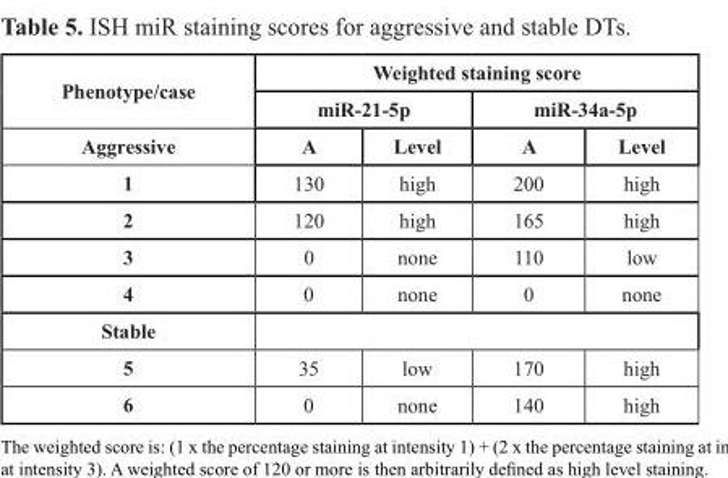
<table><thead><tr><td rowspan="3">Phenotype/case Aggressive</td><td colspan="4">Weighted staining score</td></tr><tr><td colspan="2">miR-21-5p</td><td colspan="2">miR-34a-5p</td></tr><tr><td>A</td><td>Level</td><td>A</td><td>Level</td></tr></thead><tbody><tr><td>1</td><td>130</td><td>high</td><td>200</td><td>high</td></tr><tr><td>2</td><td>120</td><td>high</td><td>165</td><td>high</td></tr><tr><td>3</td><td>0</td><td>none</td><td>110</td><td>low</td></tr><tr><td>4</td><td>0</td><td>none</td><td>0</td><td>none</td></tr><tr><td colspan="5">Stable</td></tr><tr><td>5</td><td>35</td><td>low</td><td>170</td><td>high</td></tr><tr><td>6</td><td>0</td><td>none</td><td>140</td><td>high</td></tr></tbody></table>